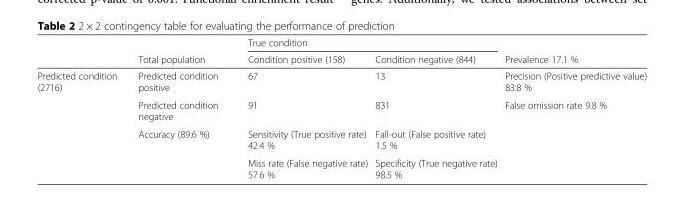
<table><thead><tr><td rowspan="2"></td><td rowspan="2">Total population</td><td colspan="2">True condition</td><td rowspan="2">Prevalence 17.1 %</td></tr><tr><td>Condition positive (158)</td><td>Condition negative (844)</td></tr></thead><tbody><tr><td rowspan="4">Predicted condition (2716)</td><td>Predicted condition positive</td><td>67</td><td>13</td><td>Precision (Positive predictive value) 83.8 %</td></tr><tr><td>Predicted condition negative</td><td>91</td><td>831</td><td>False omission rate 9.8 %</td></tr><tr><td rowspan="2">Accuracy (89.6 %)</td><td>Sensitivity (True positive rate) 42.4 %</td><td>Fall-out (False positive rate) 1.5 %</td><td rowspan="2"></td></tr><tr><td>Miss rate (False negative rate) 57.6 %</td><td>Specificity (True negative rate) 98.5 %</td></tr></tbody></table>